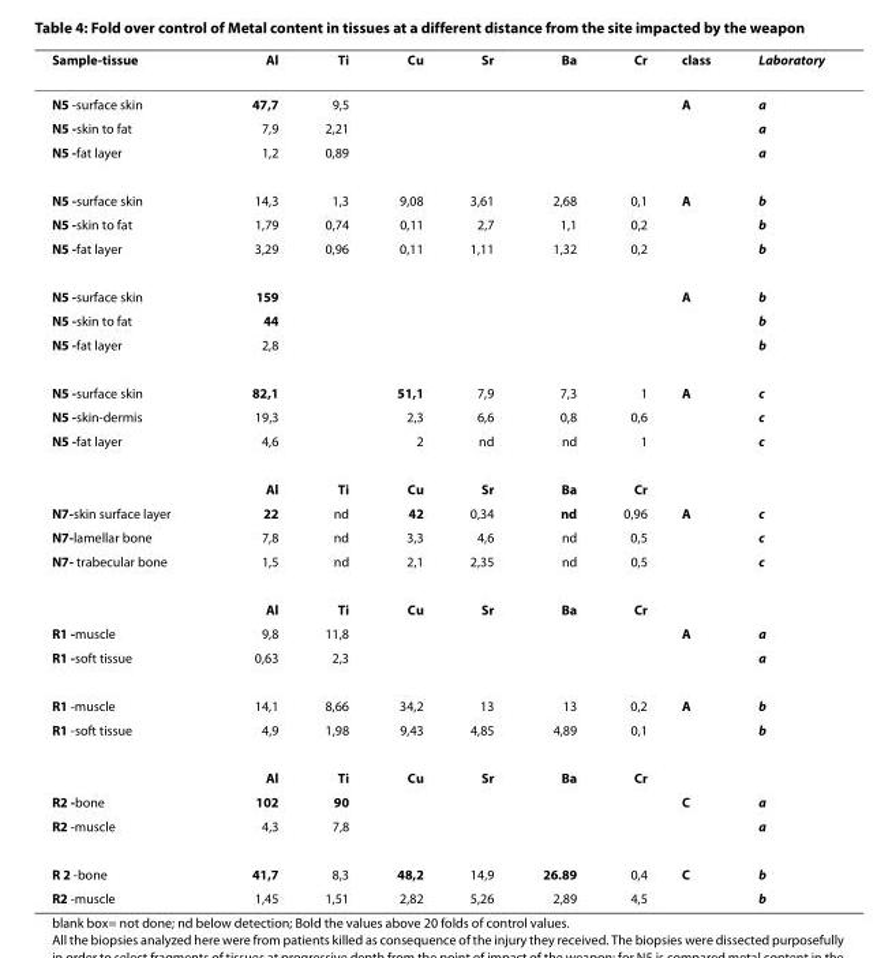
<table><thead><tr><td>Sample-tissue</td><td>Al</td><td>Ti</td><td>Cu</td><td>Sr</td><td>Ba</td><td>Cr</td><td>class</td><td>Laboratory</td></tr></thead><tbody><tr><td>N5 -surface skin</td><td>47,7</td><td>9,5</td><td></td><td></td><td></td><td></td><td>A</td><td>a</td></tr><tr><td>N5 -skin to fat</td><td>7,9</td><td>2,21</td><td></td><td></td><td></td><td></td><td></td><td>a</td></tr><tr><td>N5 -fat layer</td><td>1,2</td><td>0,89</td><td></td><td></td><td></td><td></td><td></td><td>a</td></tr><tr><td>N5 -surface skin</td><td>14,3</td><td>1,3</td><td>9,08</td><td>3,61</td><td>2,68</td><td>0,1</td><td>A</td><td>b</td></tr><tr><td>N5 -skin to fat</td><td>1,79</td><td>0,74</td><td>0,11</td><td>2,7</td><td>1,1</td><td>0,2</td><td></td><td>b</td></tr><tr><td>N5 -fat layer</td><td>3,29</td><td>0,96</td><td>0,11</td><td>1,11</td><td>1,32</td><td>0,2</td><td></td><td>b</td></tr><tr><td>N5 -surface skin</td><td>159</td><td></td><td></td><td></td><td></td><td></td><td>A</td><td>b</td></tr><tr><td>N5 -skin to fat</td><td>44</td><td></td><td></td><td></td><td></td><td></td><td></td><td>b</td></tr><tr><td>N5 -fat layer</td><td>2,8</td><td></td><td></td><td></td><td></td><td></td><td></td><td>b</td></tr><tr><td>N5 -surface skin</td><td>82,1</td><td></td><td>51,1</td><td>7,9</td><td>7,3</td><td>1</td><td>A</td><td>c</td></tr><tr><td>N5 -skin-dermis</td><td>19,3</td><td></td><td>2,3</td><td>6,6</td><td>0,8</td><td>0,6</td><td></td><td>c</td></tr><tr><td rowspan="2">N5 -fat layer</td><td>4,6</td><td></td><td>2</td><td>nd</td><td>nd</td><td>1</td><td></td><td>c</td></tr><tr><td>Al</td><td>Ti</td><td>Cu</td><td>Sr</td><td>Ba</td><td>Cr</td><td></td><td></td></tr><tr><td>N7-skin surface layer</td><td>22</td><td>nd</td><td>42</td><td>0,34</td><td>nd</td><td>0,96</td><td>A</td><td>c</td></tr><tr><td>N7-lamellar bone</td><td>7,8</td><td>nd</td><td>3,3</td><td>4,6</td><td>nd</td><td>0,5</td><td></td><td>c</td></tr><tr><td rowspan="2">N7- trabecular bone</td><td>1,5</td><td>nd</td><td>2,1</td><td>2,35</td><td>nd</td><td>0,5</td><td></td><td>c</td></tr><tr><td>Al</td><td>Ti</td><td>Cu</td><td>Sr</td><td>Ba</td><td>Cr</td><td></td><td></td></tr><tr><td>R1 -muscle</td><td>9,8</td><td>11,8</td><td></td><td></td><td></td><td></td><td>A</td><td>a</td></tr><tr><td>R1 -soft tissue</td><td>0,63</td><td>2,3</td><td></td><td></td><td></td><td></td><td></td><td>a</td></tr><tr><td>R1 -muscle</td><td>14,1</td><td>8,66</td><td>34,2</td><td>13</td><td>13</td><td>0,2</td><td>A</td><td>b</td></tr><tr><td rowspan="2">R1 -soft tissue</td><td>4,9</td><td>1,98</td><td>9,43</td><td>4,85</td><td>4,89</td><td>0,1</td><td></td><td>b</td></tr><tr><td>Al</td><td>Ti</td><td>Cu</td><td>Sr</td><td>Ba</td><td>Cr</td><td></td><td></td></tr><tr><td>R2 -bone</td><td>102</td><td>90</td><td></td><td></td><td></td><td></td><td>C</td><td>a</td></tr><tr><td>R2 -muscle</td><td>4,3</td><td>7,8</td><td></td><td></td><td></td><td></td><td></td><td>a</td></tr><tr><td>R 2 -bone</td><td>41,7</td><td>8,3</td><td>48,2</td><td>14,9</td><td>26.89</td><td>0,4</td><td>C</td><td>b</td></tr><tr><td>R2 -muscle</td><td>1,45</td><td>1,51</td><td>2,82</td><td>5,26</td><td>2,89</td><td>4,5</td><td></td><td>b</td></tr></tbody></table>